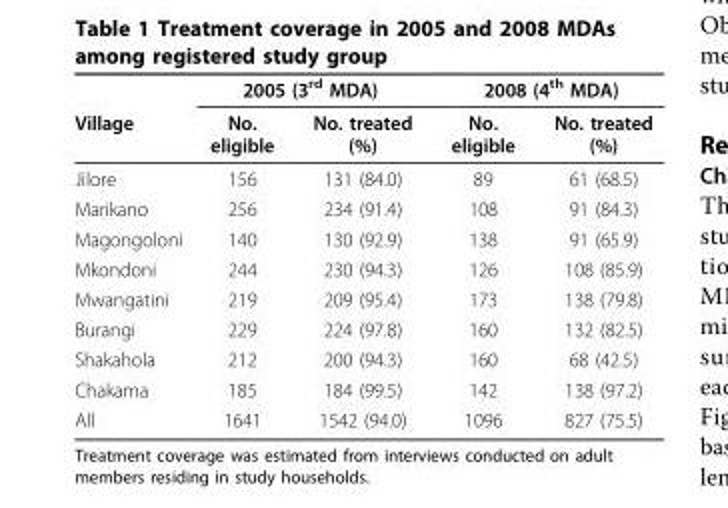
<table><thead><tr><td rowspan="2">Village</td><td colspan="2">2005 (3<sup>rd</sup> MDA)</td><td colspan="2">2008 (4<sup>th</sup> MDA)</td></tr><tr><td>No. eligible</td><td>No. treated (%)</td><td>No. eligible</td><td>No. treated (%)</td></tr></thead><tbody><tr><td>Jilore</td><td>156</td><td>131 (84.0)</td><td>89</td><td>61 (68.5)</td></tr><tr><td>Marikano</td><td>256</td><td>234 (91.4)</td><td>108</td><td>91 (84.3)</td></tr><tr><td>Magongoloni</td><td>140</td><td>130 (92.9)</td><td>138</td><td>91 (65.9)</td></tr><tr><td>Mkondoni</td><td>244</td><td>230 (94.3)</td><td>126</td><td>108 (85.9)</td></tr><tr><td>Mwangatini</td><td>219</td><td>209 (95.4)</td><td>173</td><td>138 (79.8)</td></tr><tr><td>Burangi</td><td>229</td><td>224 (97.8)</td><td>160</td><td>132 (82.5)</td></tr><tr><td>Shakahola</td><td>212</td><td>200 (94.3)</td><td>160</td><td>68 (42.5)</td></tr><tr><td>Chakama</td><td>185</td><td>184 (99.5)</td><td>142</td><td>138 (97.2)</td></tr><tr><td>All</td><td>1641</td><td>1542 (94.0)</td><td>1096</td><td>827 (75.5)</td></tr></tbody></table>